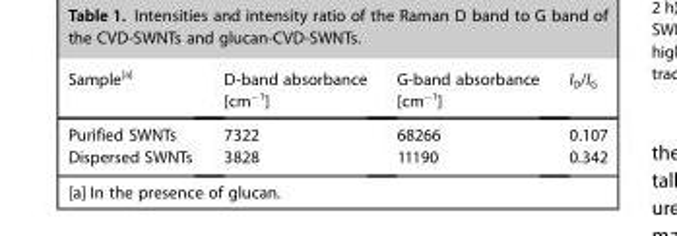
<table><thead><tr><td>Sample<sup>[a]</sup></td><td>D-band absorbance [cm<sup>−1</sup>]</td><td>G-band absorbance [cm<sup>−1</sup>]</td><td>I<sub>D</sub>/I<sub>G</sub></td></tr></thead><tbody><tr><td>Purified SWNTs</td><td>7322</td><td>68266</td><td>0.107</td></tr><tr><td>Dispersed SWNTs</td><td>3828</td><td>11190</td><td>0.342</td></tr></tbody></table>